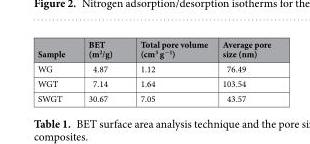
<table><thead><tr><td>Sample</td><td>BET (m<sup>2</sup>/g)</td><td>Total pore volume (cm<sup>3</sup> g<sup>−1</sup>)</td><td>Average pore size (nm)</td></tr></thead><tbody><tr><td>WG</td><td>4.87</td><td>1.12</td><td>76.49</td></tr><tr><td>WGT</td><td>7.14</td><td>1.64</td><td>103.54</td></tr><tr><td>SWGT</td><td>30.67</td><td>7.05</td><td>43.57</td></tr></tbody></table>